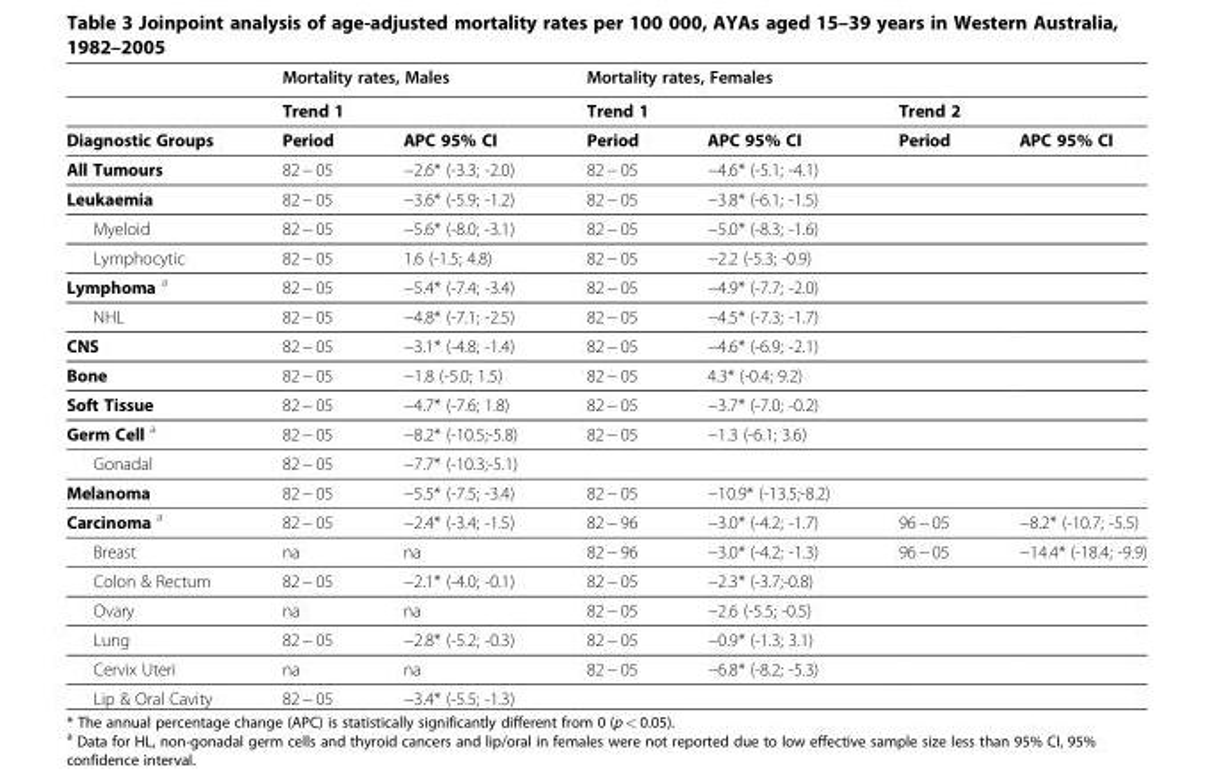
<table><thead><tr><td rowspan="3">Diagnostic Groups</td><td rowspan="2" colspan="2">Mortality rates, Males Trend 1</td><td colspan="4">Mortality rates, Females</td></tr><tr><td colspan="2">Trend 1</td><td colspan="2">Trend 2</td></tr><tr><td>Period</td><td>APC 95% CI</td><td>Period</td><td>APC 95% CI</td><td>Period</td><td>APC 95% CI</td></tr></thead><tbody><tr><td>All Tumours</td><td>82 − 05</td><td>−2.6* (-3.3; -2.0)</td><td>82 − 05</td><td>−4.6* (-5.1; -4.1)</td><td></td><td></td></tr><tr><td>Leukaemia</td><td>82 − 05</td><td>−3.6* (-5.9; -1.2)</td><td>82 − 05</td><td>−3.8* (-6.1; -1.5)</td><td></td><td></td></tr><tr><td>Myeloid</td><td>82 − 05</td><td>−5.6* (-8.0; -3.1)</td><td>82 − 05</td><td>−5.0* (-8.3; -1.6)</td><td></td><td></td></tr><tr><td>Lymphocytic</td><td>82 − 05</td><td>1.6 (-1.5; 4.8)</td><td>82 − 05</td><td>−2.2 (-5.3; -0.9)</td><td></td><td></td></tr><tr><td>Lymphoma <sup>a</sup></td><td>82 − 05</td><td>−5.4* (-7.4; -3.4)</td><td>82 − 05</td><td>−4.9* (-7.7; -2.0)</td><td></td><td></td></tr><tr><td>NHL</td><td>82 − 05</td><td>−4.8* (-7.1; -2.5)</td><td>82 − 05</td><td>−4.5* (-7.3; -1.7)</td><td></td><td></td></tr><tr><td>CNS</td><td>82 − 05</td><td>−3.1* (-4.8; -1.4)</td><td>82 − 05</td><td>−4.6* (-6.9; -2.1)</td><td></td><td></td></tr><tr><td>Bone</td><td>82 − 05</td><td>−1.8 (-5.0; 1.5)</td><td>82 − 05</td><td>4.3* (-0.4; 9.2)</td><td></td><td></td></tr><tr><td>Soft Tissue</td><td>82 − 05</td><td>−4.7* (-7.6; 1.8)</td><td>82 − 05</td><td>−3.7* (-7.0; -0.2)</td><td></td><td></td></tr><tr><td>Germ Cell <sup>a</sup></td><td>82 − 05</td><td>−8.2* (-10.5;-5.8)</td><td>82 − 05</td><td>−1.3 (-6.1; 3.6)</td><td></td><td></td></tr><tr><td>Gonadal</td><td>82 − 05</td><td>−7.7* (-10.3;-5.1)</td><td></td><td></td><td></td><td></td></tr><tr><td>Melanoma</td><td>82 − 05</td><td>−5.5* (-7.5; -3.4)</td><td>82 − 05</td><td>−10.9* (-13.5;-8.2)</td><td></td><td></td></tr><tr><td>Carcinoma <sup>a</sup></td><td>82 − 05</td><td>−2.4* (-3.4; -1.5)</td><td>82 − 96</td><td>−3.0* (-4.2; -1.7)</td><td>96 − 05</td><td>−8.2* (-10.7; -5.5)</td></tr><tr><td>Breast</td><td>na</td><td>na</td><td>82 − 96</td><td>−3.0* (-4.2; -1.3)</td><td>96 − 05</td><td>−14.4* (-18.4; -9.9)</td></tr><tr><td>Colon &amp; Rectum</td><td>82 − 05</td><td>−2.1* (-4.0; -0.1)</td><td>82 − 05</td><td>−2.3* (-3.7;-0.8)</td><td></td><td></td></tr><tr><td>Ovary</td><td>na</td><td>na</td><td>82 − 05</td><td>−2.6 (-5.5; -0.5)</td><td></td><td></td></tr><tr><td>Lung</td><td>82 − 05</td><td>−2.8* (-5.2; -0.3)</td><td>82 − 05</td><td>−0.9* (-1.3; 3.1)</td><td></td><td></td></tr><tr><td>Cervix Uteri</td><td>na</td><td>na</td><td>82 − 05</td><td>−6.8* (-8.2; -5.3)</td><td></td><td></td></tr><tr><td>Lip &amp; Oral Cavity</td><td>82 − 05</td><td>−3.4* (-5.5; -1.3)</td><td></td><td></td><td></td><td></td></tr></tbody></table>